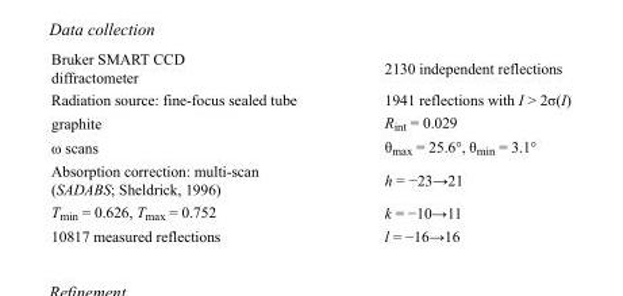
<table><tbody><tr><td>Bruker SMART CCD diffractometer</td><td>2130 independent reflections</td></tr><tr><td>Radiation source: fine-focus sealed tube</td><td>1941 reflections with I &gt; 2σ(I)</td></tr><tr><td>graphite</td><td>R<sub>int</sub> = 0.029</td></tr><tr><td>ω scans</td><td>θ<sub>max</sub> = 25.6°, θ<sub>min</sub> = 3.1°</td></tr><tr><td>Absorption correction: multi-scan (SADABS; Sheldrick, 1996)</td><td>h = −23→21</td></tr><tr><td>T<sub>min</sub> = 0.626, T<sub>max</sub> = 0.752</td><td>k = −10→11</td></tr><tr><td>10817 measured reflections</td><td>l = −16→16</td></tr></tbody></table>